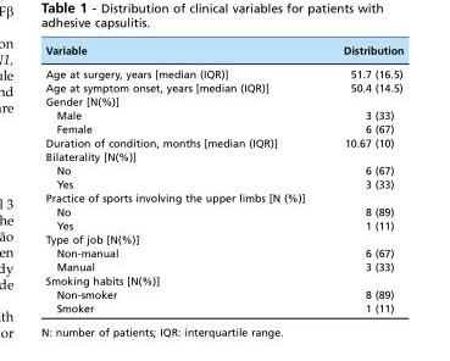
<table><thead><tr><td>Variable</td><td>Distribution</td></tr></thead><tbody><tr><td>Age at surgery, years [median (IQR)]</td><td>51.7 (16.5)</td></tr><tr><td>Age at symptom onset, years [median (IQR)]</td><td>50.4 (14.5)</td></tr><tr><td colspan="2">Gender [N(%)]</td></tr><tr><td>Male</td><td>3 (33)</td></tr><tr><td>Female</td><td>6 (67)</td></tr><tr><td>Duration of condition, months [median (IQR)]</td><td>10.67 (10)</td></tr><tr><td colspan="2">Bilaterality [N(%)]</td></tr><tr><td>No</td><td>6 (67)</td></tr><tr><td>Yes</td><td>3 (33)</td></tr><tr><td colspan="2">Practice of sports involving the upper limbs [N (%)]</td></tr><tr><td>No</td><td>8 (89)</td></tr><tr><td>Yes</td><td>1 (11)</td></tr><tr><td colspan="2">Type of job [N(%)]</td></tr><tr><td>Non-manual</td><td>6 (67)</td></tr><tr><td>Manual</td><td>3 (33)</td></tr><tr><td colspan="2">Smoking habits [N(%)]</td></tr><tr><td>Non-smoker</td><td>8 (89)</td></tr><tr><td>Smoker</td><td>1 (11)</td></tr></tbody></table>